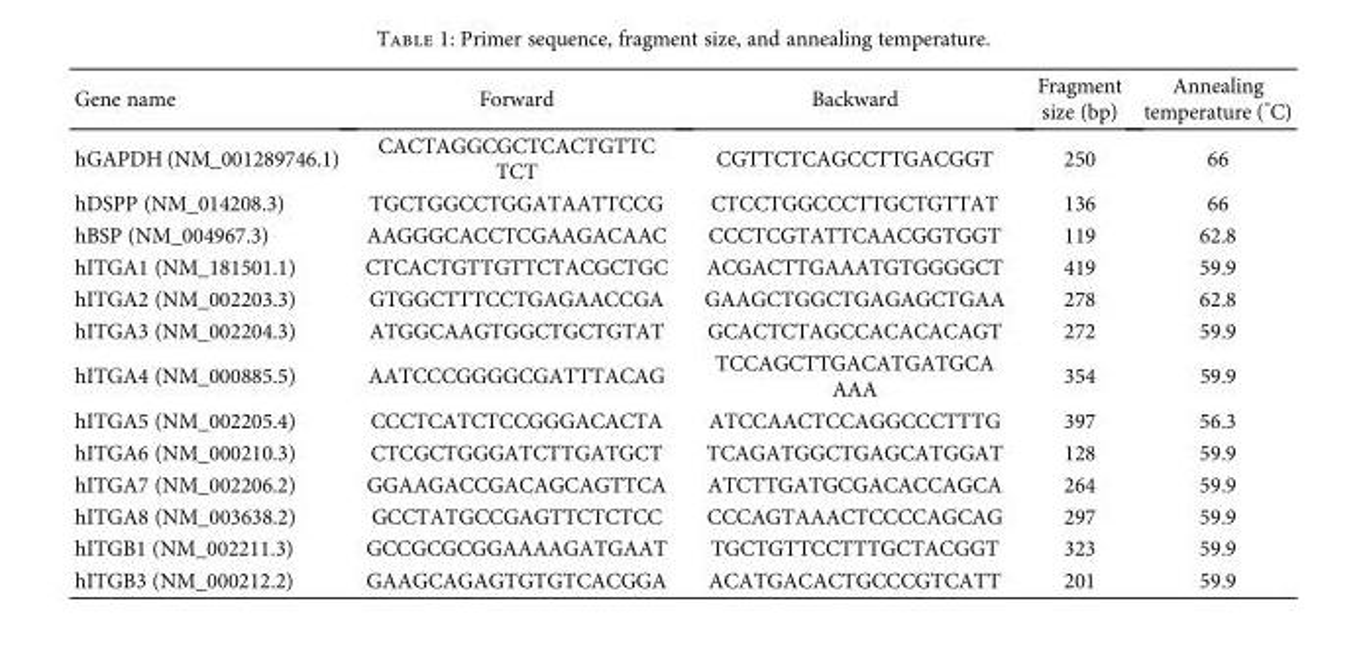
<table><thead><tr><td>Gene name</td><td>Forward</td><td>Backward</td><td>Fragment size (bp)</td><td>Annealing temperature (°C)</td></tr></thead><tbody><tr><td>hGAPDH (NM_001289746.1)</td><td>CACTAGGCGCTCACTGTTC TCT</td><td>CGTTCTCAGCCTTGACGGT</td><td>250</td><td>66</td></tr><tr><td>hDSPP (NM_014208.3)</td><td>TGCTGGCCTGGATAATTCCG</td><td>CTCCTGGCCCTTGCTGTTAT</td><td>136</td><td>66</td></tr><tr><td>hBSP (NM_004967.3)</td><td>AAGGGCACCTCGAAGACAAC</td><td>CCCTCGTATTCAACGGTGGT</td><td>119</td><td>62.8</td></tr><tr><td>hITGA1 (NM_181501.1)</td><td>CTCACTGTTGTTCTACGCTGC</td><td>ACGACTTGAAATGTGGGGCT</td><td>419</td><td>59.9</td></tr><tr><td>hITGA2 (NM_002203.3)</td><td>GTGGCTTTCCTGAGAACCGA</td><td>GAAGCTGGCTGAGAGCTGAA</td><td>278</td><td>62.8</td></tr><tr><td>hITGA3 (NM_002204.3)</td><td>ATGGCAAGTGGCTGCTGTAT</td><td>GCACTCTAGCCACACACAGT</td><td>272</td><td>59.9</td></tr><tr><td>hITGA4 (NM_000885.5)</td><td>AATCCCGGGGCGATTTACAG</td><td>TCCAGCTTGACATGATGCA AAA</td><td>354</td><td>59.9</td></tr><tr><td>hITGA5 (NM_002205.4)</td><td>CCCTCATCTCCGGGACACTA</td><td>ATCCAACTCCAGGCCCTTTG</td><td>397</td><td>56.3</td></tr><tr><td>hITGA6 (NM_000210.3)</td><td>CTCGCTGGGATCTTGATGCT</td><td>TCAGATGGCTGAGCATGGAT</td><td>128</td><td>59.9</td></tr><tr><td>hITGA7 (NM_002206.2)</td><td>GGAAGACCGACAGCAGTTCA</td><td>ATCTTGATGCGACACCAGCA</td><td>264</td><td>59.9</td></tr><tr><td>hITGA8 (NM_003638.2)</td><td>GCCTATGCCGAGTTCTCTCC</td><td>CCCAGTAAACTCCCCAGCAG</td><td>297</td><td>59.9</td></tr><tr><td>hITGB1 (NM_002211.3)</td><td>GCCGCGCGGAAAAGATGAAT</td><td>TGCTGTTCCTTTGCTACGGT</td><td>323</td><td>59.9</td></tr><tr><td>hITGB3 (NM_000212.2)</td><td>GAAGCAGAGTGTGTCACGGA</td><td>ACATGACACTGCCCGTCATT</td><td>201</td><td>59.9</td></tr></tbody></table>